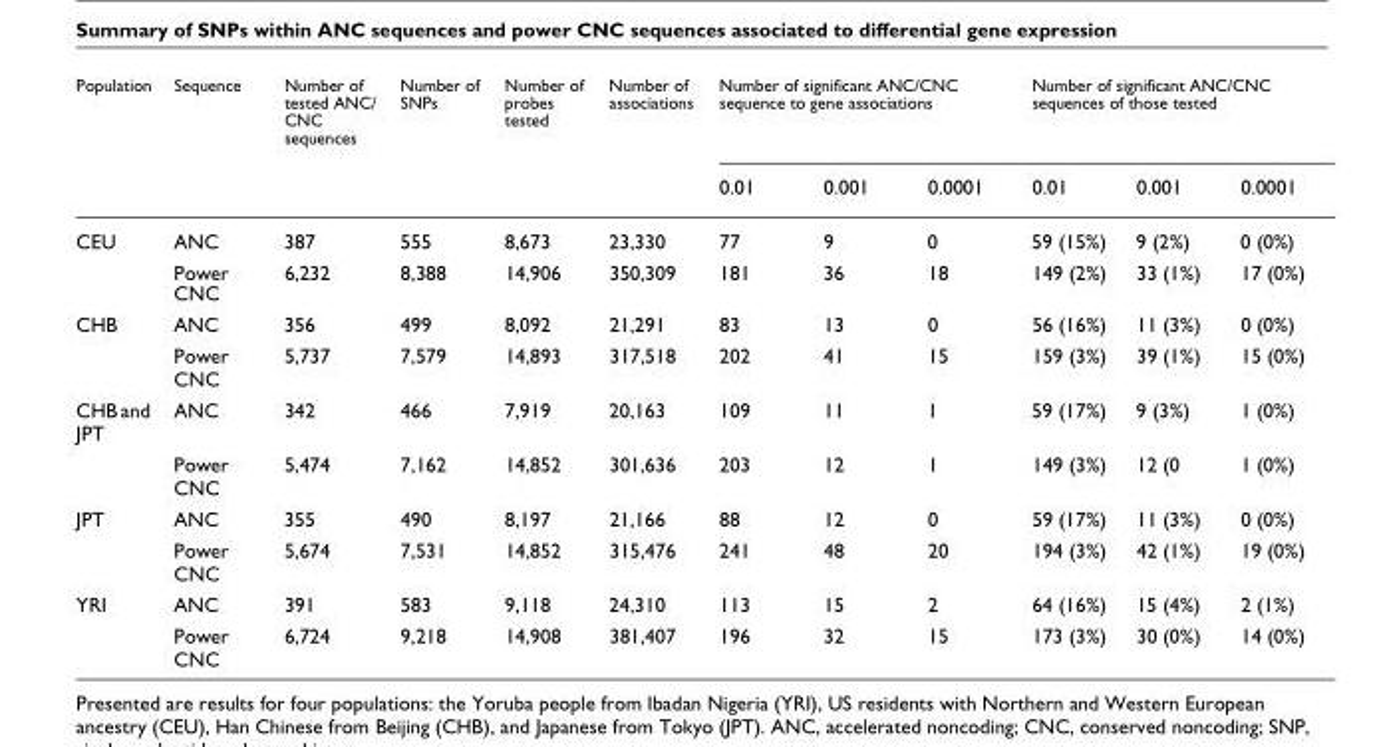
<table><thead><tr><td rowspan="2">Population</td><td rowspan="2">Sequence</td><td rowspan="2">Number of tested ANC/ CNC sequences</td><td rowspan="2">Number of SNPs</td><td rowspan="2">Number of probes tested</td><td rowspan="2">Number of associations</td><td colspan="3">Number of significant ANC/CNC sequence to gene associations</td><td colspan="3">Number of significant ANC/CNC sequences of those tested</td></tr><tr><td>0.01</td><td>0.001</td><td>0.0001</td><td>0.01</td><td>0.001</td><td>0.0001</td></tr></thead><tbody><tr><td rowspan="2">CEU</td><td>ANC</td><td>387</td><td>555</td><td>8,673</td><td>23,330</td><td>77</td><td>9</td><td>0</td><td>59 (15%)</td><td>9 (2%)</td><td>0 (0%)</td></tr><tr><td>Power CNC</td><td>6,232</td><td>8,388</td><td>14,906</td><td>350,309</td><td>181</td><td>36</td><td>18</td><td>149 (2%)</td><td>33 (1%)</td><td>17 (0%)</td></tr><tr><td rowspan="2">CHB</td><td>ANC</td><td>356</td><td>499</td><td>8,092</td><td>21,291</td><td>83</td><td>13</td><td>0</td><td>56 (16%)</td><td>11 (3%)</td><td>0 (0%)</td></tr><tr><td>Power CNC</td><td>5,737</td><td>7,579</td><td>14,893</td><td>317,518</td><td>202</td><td>41</td><td>15</td><td>159 (3%)</td><td>39 (1%)</td><td>15 (0%)</td></tr><tr><td rowspan="2">CHB and JPT</td><td>ANC</td><td>342</td><td>466</td><td>7,919</td><td>20,163</td><td>109</td><td>11</td><td>1</td><td>59 (17%)</td><td>9 (3%)</td><td>1 (0%)</td></tr><tr><td>Power CNC</td><td>5,474</td><td>7,162</td><td>14,852</td><td>301,636</td><td>203</td><td>12</td><td>1</td><td>149 (3%)</td><td>12 (0</td><td>1 (0%)</td></tr><tr><td rowspan="2">JPT</td><td>ANC</td><td>355</td><td>490</td><td>8,197</td><td>21,166</td><td>88</td><td>12</td><td>0</td><td>59 (17%)</td><td>11 (3%)</td><td>0 (0%)</td></tr><tr><td>Power CNC</td><td>5,674</td><td>7,531</td><td>14,852</td><td>315,476</td><td>241</td><td>48</td><td>20</td><td>194 (3%)</td><td>42 (1%)</td><td>19 (0%)</td></tr><tr><td rowspan="2">YRI</td><td>ANC</td><td>391</td><td>583</td><td>9,118</td><td>24,310</td><td>113</td><td>15</td><td>2</td><td>64 (16%)</td><td>15 (4%)</td><td>2 (1%)</td></tr><tr><td>Power CNC</td><td>6,724</td><td>9,218</td><td>14,908</td><td>381,407</td><td>196</td><td>32</td><td>15</td><td>173 (3%)</td><td>30 (0%)</td><td>14 (0%)</td></tr></tbody></table>